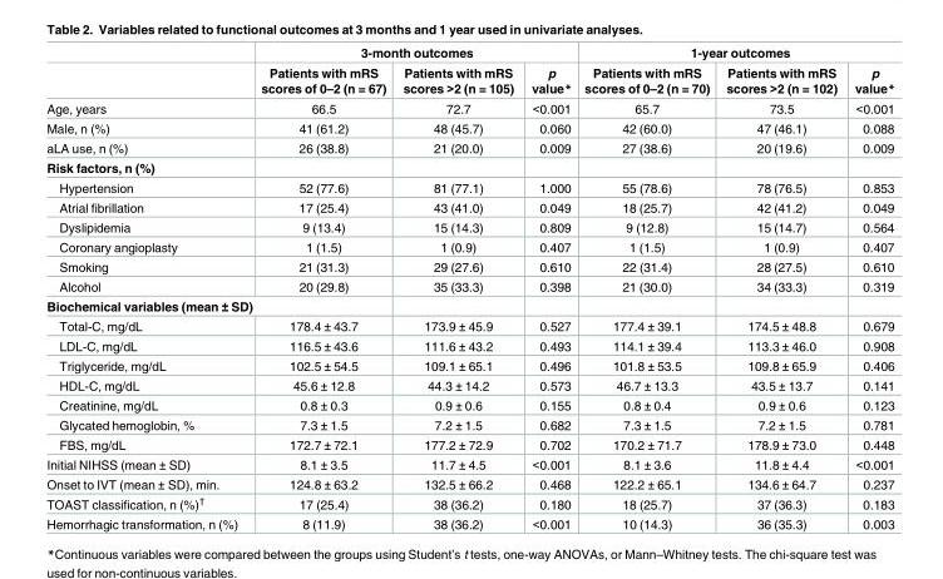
<table><thead><tr><td rowspan="2"></td><td colspan="3">3-month outcomes</td><td colspan="3">1-year outcomes</td></tr><tr><td>Patients with mRS scores of 0–2 (n = 67)</td><td>Patients with mRS scores &gt;2 (n = 105)</td><td>p value*</td><td>Patients with mRS scores of 0–2 (n = 70)</td><td>Patients with mRS scores &gt;2 (n = 102)</td><td>p value*</td></tr></thead><tbody><tr><td>Age, years</td><td>66.5</td><td>72.7</td><td>&lt;0.001</td><td>65.7</td><td>73.5</td><td>&lt;0.001</td></tr><tr><td>Male, n (%)</td><td>41 (61.2)</td><td>48 (45.7)</td><td>0.060</td><td>42 (60.0)</td><td>47 (46.1)</td><td>0.088</td></tr><tr><td>aLA use, n (%)</td><td>26 (38.8)</td><td>21 (20.0)</td><td>0.009</td><td>27 (38.6)</td><td>20 (19.6)</td><td>0.009</td></tr><tr><td colspan="7">Risk factors, n (%)</td></tr><tr><td>Hypertension</td><td>52 (77.6)</td><td>81 (77.1)</td><td>1.000</td><td>55 (78.6)</td><td>78 (76.5)</td><td>0.853</td></tr><tr><td>Atrial fibrillation</td><td>17 (25.4)</td><td>43 (41.0)</td><td>0.049</td><td>18 (25.7)</td><td>42 (41.2)</td><td>0.049</td></tr><tr><td>Dyslipidemia</td><td>9 (13.4)</td><td>15 (14.3)</td><td>0.809</td><td>9 (12.8)</td><td>15 (14.7)</td><td>0.564</td></tr><tr><td>Coronary angioplasty</td><td>1 (1.5)</td><td>1 (0.9)</td><td>0.407</td><td>1 (1.5)</td><td>1 (0.9)</td><td>0.407</td></tr><tr><td>Smoking</td><td>21 (31.3)</td><td>29 (27.6)</td><td>0.610</td><td>22 (31.4)</td><td>28 (27.5)</td><td>0.610</td></tr><tr><td>Alcohol</td><td>20 (29.8)</td><td>35 (33.3)</td><td>0.398</td><td>21 (30.0)</td><td>34 (33.3)</td><td>0.319</td></tr><tr><td colspan="7">Biochemical variables (mean ± SD)</td></tr><tr><td>Total-C, mg/dL</td><td>178.4 ± 43.7</td><td>173.9 ± 45.9</td><td>0.527</td><td>177.4 ± 39.1</td><td>174.5 ± 48.8</td><td>0.679</td></tr><tr><td>LDL-C, mg/dL</td><td>116.5 ± 43.6</td><td>111.6 ± 43.2</td><td>0.493</td><td>114.1 ± 39.4</td><td>113.3 ± 46.0</td><td>0.908</td></tr><tr><td>Triglyceride, mg/dL</td><td>102.5 ± 54.5</td><td>109.1 ± 65.1</td><td>0.496</td><td>101.8 ± 53.5</td><td>109.8 ± 65.9</td><td>0.406</td></tr><tr><td>HDL-C, mg/dL</td><td>45.6 ± 12.8</td><td>44.3 ± 14.2</td><td>0.573</td><td>46.7 ± 13.3</td><td>43.5 ± 13.7</td><td>0.141</td></tr><tr><td>Creatinine, mg/dL</td><td>0.8 ± 0.3</td><td>0.9 ± 0.6</td><td>0.155</td><td>0.8 ± 0.4</td><td>0.9 ± 0.6</td><td>0.123</td></tr><tr><td>Glycated hemoglobin, %</td><td>7.3 ± 1.5</td><td>7.2 ± 1.5</td><td>0.682</td><td>7.3 ± 1.5</td><td>7.2 ± 1.5</td><td>0.781</td></tr><tr><td>FBS, mg/dL</td><td>172.7 ± 72.1</td><td>177.2 ± 72.9</td><td>0.702</td><td>170.2 ± 71.7</td><td>178.9 ± 73.0</td><td>0.448</td></tr><tr><td>Initial NIHSS (mean ± SD)</td><td>8.1 ± 3.5</td><td>11.7 ± 4.5</td><td>&lt;0.001</td><td>8.1 ± 3.6</td><td>11.8 ± 4.4</td><td>&lt;0.001</td></tr><tr><td>Onset to IVT (mean ± SD), min.</td><td>124.8 ± 63.2</td><td>132.5 ± 66.2</td><td>0.468</td><td>122.2 ± 65.1</td><td>134.6 ± 64.7</td><td>0.237</td></tr><tr><td>TOAST classification, n (%)<sup>†</sup></td><td>17 (25.4)</td><td>38 (36.2)</td><td>0.180</td><td>18 (25.7)</td><td>37 (36.3)</td><td>0.183</td></tr><tr><td>Hemorrhagic transformation, n (%)</td><td>8 (11.9)</td><td>38 (36.2)</td><td>&lt;0.001</td><td>10 (14.3)</td><td>36 (35.3)</td><td>0.003</td></tr></tbody></table>